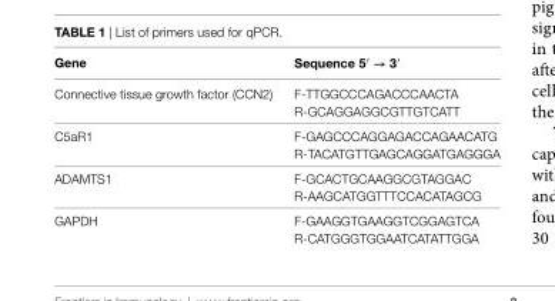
<table><thead><tr><td>gene</td><td>sequence 5′ → 3′</td></tr></thead><tbody><tr><td>Connective tissue growth factor (CCN2)</td><td>F-TTGGCCCAGACCCAACTA R-GCAGGAGGCGTTGTCATT</td></tr><tr><td>C5aR1</td><td>F-GAGCCCAGGAGACCAGAACATG R-TACATGTTGAGCAGGATGAGGGA</td></tr><tr><td>ADAMTS1</td><td>F-GCACTGCAAGGCGTAGGAC R-AAGCATGGTTTCCACATAGCG</td></tr><tr><td>GAPDH</td><td>F-GAAGGTGAAGGTCGGAGTCA R-CATGGGTGGAATCATATTGGA</td></tr></tbody></table>